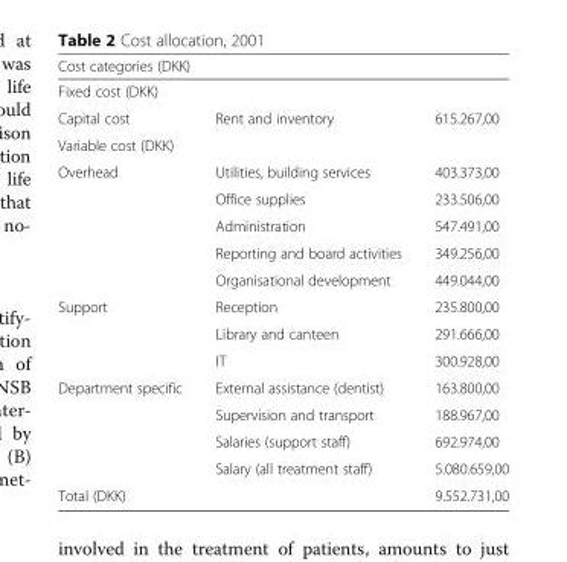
<table><thead><tr><td rowspan="2" colspan="3">Cost categories (DKK) Fixed cost (DKK)</td></tr><tr></tr><tr><td>Capital cost</td><td>Rent and inventory</td><td>615.267,00</td></tr></thead><tbody><tr><td colspan="3">Variable cost (DKK)</td></tr><tr><td rowspan="5">Overhead</td><td>Utilities, building services</td><td>403.373,00</td></tr><tr><td>Office supplies</td><td>233.506,00</td></tr><tr><td>Administration</td><td>547.491,00</td></tr><tr><td>Reporting and board activities</td><td>349.256,00</td></tr><tr><td>Organisational development</td><td>449.044,00</td></tr><tr><td rowspan="3">Support</td><td>Reception</td><td>235.800,00</td></tr><tr><td>Library and canteen</td><td>291.666,00</td></tr><tr><td>IT</td><td>300.928,00</td></tr><tr><td rowspan="4">Department specific</td><td>External assistance (dentist)</td><td>163.800,00</td></tr><tr><td>Supervision and transport</td><td>188.967,00</td></tr><tr><td>Salaries (support staff)</td><td>692.974,00</td></tr><tr><td>Salary (all treatment staff)</td><td>5.080.659,00</td></tr><tr><td>Total (DKK)</td><td></td><td>9.552.731,00</td></tr></tbody></table>